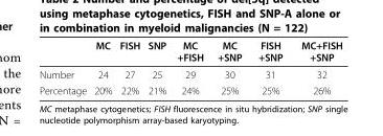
<table><thead><tr><td></td><td>MC</td><td>FISH</td><td>SNP</td><td>MC +FISH</td><td>MC +SNP</td><td>FISH +SNP</td><td>MC+FISH +SNP</td></tr></thead><tbody><tr><td>Number</td><td>24</td><td>27</td><td>25</td><td>29</td><td>30</td><td>31</td><td>32</td></tr><tr><td>Percentage</td><td>20%</td><td>22%</td><td>21%</td><td>24%</td><td>25%</td><td>25%</td><td>26%</td></tr></tbody></table>